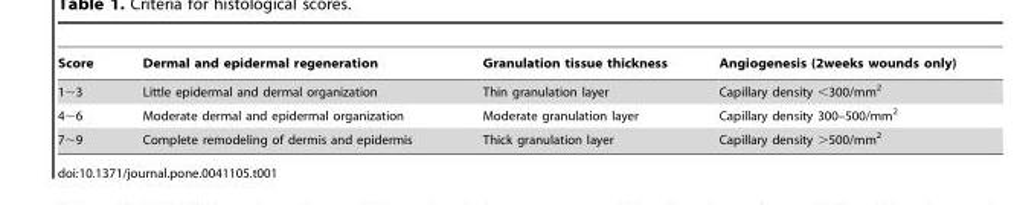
<table><thead><tr><td>Score</td><td>Dermal and epidermal regeneration</td><td>Granulation tissue thickness</td><td>Angiogenesis (2weeks wounds only)</td></tr></thead><tbody><tr><td>1∼3</td><td>Little epidermal and dermal organization</td><td>Thin granulation layer</td><td>Capillary density &lt;300/mm<sup>2</sup></td></tr><tr><td>4∼6</td><td>Moderate dermal and epidermal organization</td><td>Moderate granulation layer</td><td>Capillary density 300–500/mm<sup>2</sup></td></tr><tr><td>7∼9</td><td>Complete remodeling of dermis and epidermis</td><td>Thick granulation layer</td><td>Capillary density &gt;500/mm<sup>2</sup></td></tr></tbody></table>